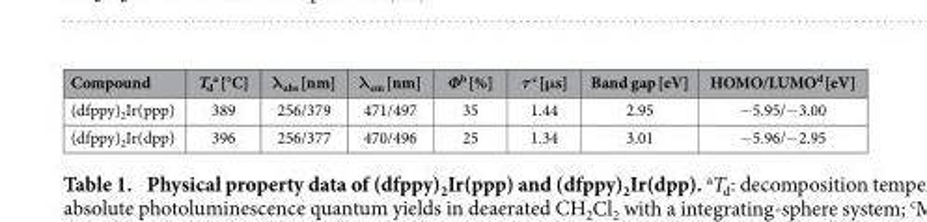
<table><thead><tr><td>Compound</td><td>T<sub>d</sub> <sup>a</sup> [°C]</td><td>λ<sub>abs</sub> [nm]</td><td>λ<sub>em</sub> [nm]</td><td>Ф<sup>b</sup> [%]</td><td>τ <sup>c</sup> [μs]</td><td>Band gap [eV]</td><td>HOMO/LUMO<sup>d</sup> [eV]</td></tr></thead><tbody><tr><td>(dfppy)<sub>2</sub>Ir(ppp)</td><td>389</td><td>256/379</td><td>471/497</td><td>35</td><td>1.44</td><td>2.95</td><td>− 5.95/− 3.00</td></tr><tr><td>(dfppy)<sub>2</sub>Ir(dpp)</td><td>396</td><td>256/377</td><td>470/496</td><td>25</td><td>1.34</td><td>3.01</td><td>− 5.96/− 2.95</td></tr></tbody></table>